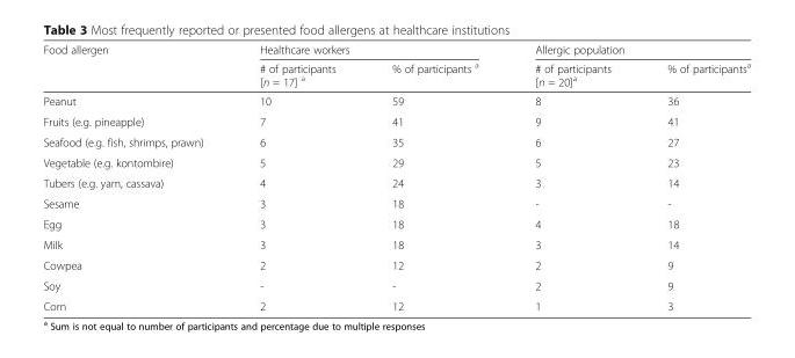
<table><thead><tr><td rowspan="2">Food allergen</td><td colspan="2">Healthcare workers</td><td colspan="2">Allergic population</td></tr><tr><td># of participants [n = 17] <sup>a</sup></td><td>% of participants <sup>a</sup></td><td># of participants [n = 20]<sup>a</sup></td><td>% of participants<sup>a</sup></td></tr></thead><tbody><tr><td>Peanut</td><td>10</td><td>59</td><td>8</td><td>36</td></tr><tr><td>Fruits (e.g. pineapple)</td><td>7</td><td>41</td><td>9</td><td>41</td></tr><tr><td>Seafood (e.g. fish, shrimps, prawn)</td><td>6</td><td>35</td><td>6</td><td>27</td></tr><tr><td>Vegetable (e.g. kontombire)</td><td>5</td><td>29</td><td>5</td><td>23</td></tr><tr><td>Tubers (e.g. yam, cassava)</td><td>4</td><td>24</td><td>3</td><td>14</td></tr><tr><td>Sesame</td><td>3</td><td>18</td><td>-</td><td>-</td></tr><tr><td>Egg</td><td>3</td><td>18</td><td>4</td><td>18</td></tr><tr><td>Milk</td><td>3</td><td>18</td><td>3</td><td>14</td></tr><tr><td>Cowpea</td><td>2</td><td>12</td><td>2</td><td>9</td></tr><tr><td>Soy</td><td>-</td><td>-</td><td>2</td><td>9</td></tr><tr><td>Corn</td><td>2</td><td>12</td><td>1</td><td>3</td></tr></tbody></table>